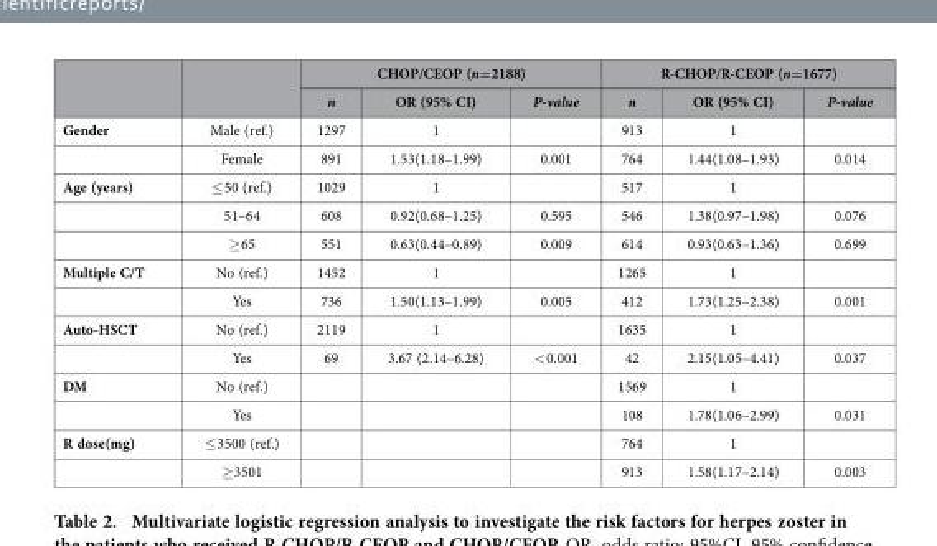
<table><thead><tr><td rowspan="2"></td><td rowspan="2"></td><td colspan="3">CHOP/CEOP (n=2188)</td><td colspan="3">R-CHOP/R-CEOP (n=1677)</td></tr><tr><td>n</td><td>OR (95% CI)</td><td>P-value</td><td>n</td><td>OR (95% CI)</td><td>P-value</td></tr></thead><tbody><tr><td rowspan="2">Gender</td><td>Male (ref.)</td><td>1297</td><td>1</td><td></td><td>913</td><td>1</td><td></td></tr><tr><td>Female</td><td>891</td><td>1.53(1.18–1.99)</td><td>0.001</td><td>764</td><td>1.44(1.08–1.93)</td><td>0.014</td></tr><tr><td rowspan="3">Age (years)</td><td>≤ 50 (ref.)</td><td>1029</td><td>1</td><td></td><td>517</td><td>1</td><td></td></tr><tr><td>51–64</td><td>608</td><td>0.92(0.68–1.25)</td><td>0.595</td><td>546</td><td>1.38(0.97–1.98)</td><td>0.076</td></tr><tr><td>≥ 65</td><td>551</td><td>0.63(0.44–0.89)</td><td>0.009</td><td>614</td><td>0.93(0.63–1.36)</td><td>0.699</td></tr><tr><td rowspan="2">Multiple C/T</td><td>No (ref.)</td><td>1452</td><td>1</td><td></td><td>1265</td><td>1</td><td></td></tr><tr><td>Yes</td><td>736</td><td>1.50(1.13–1.99)</td><td>0.005</td><td>412</td><td>1.73(1.25–2.38)</td><td>0.001</td></tr><tr><td rowspan="2">Auto-HSCT</td><td>No (ref.)</td><td>2119</td><td>1</td><td></td><td>1635</td><td>1</td><td></td></tr><tr><td>Yes</td><td>69</td><td>3.67 (2.14–6.28)</td><td>&lt; 0.001</td><td>42</td><td>2.15(1.05–4.41)</td><td>0.037</td></tr><tr><td rowspan="2">DM</td><td>No (ref.)</td><td></td><td></td><td></td><td>1569</td><td>1</td><td></td></tr><tr><td>Yes</td><td></td><td></td><td></td><td>108</td><td>1.78(1.06–2.99)</td><td>0.031</td></tr><tr><td rowspan="2">R dose(mg)</td><td>≤ 3500 (ref.)</td><td></td><td></td><td></td><td>764</td><td>1</td><td></td></tr><tr><td>≥ 3501</td><td></td><td></td><td></td><td>913</td><td>1.58(1.17–2.14)</td><td>0.003</td></tr></tbody></table>